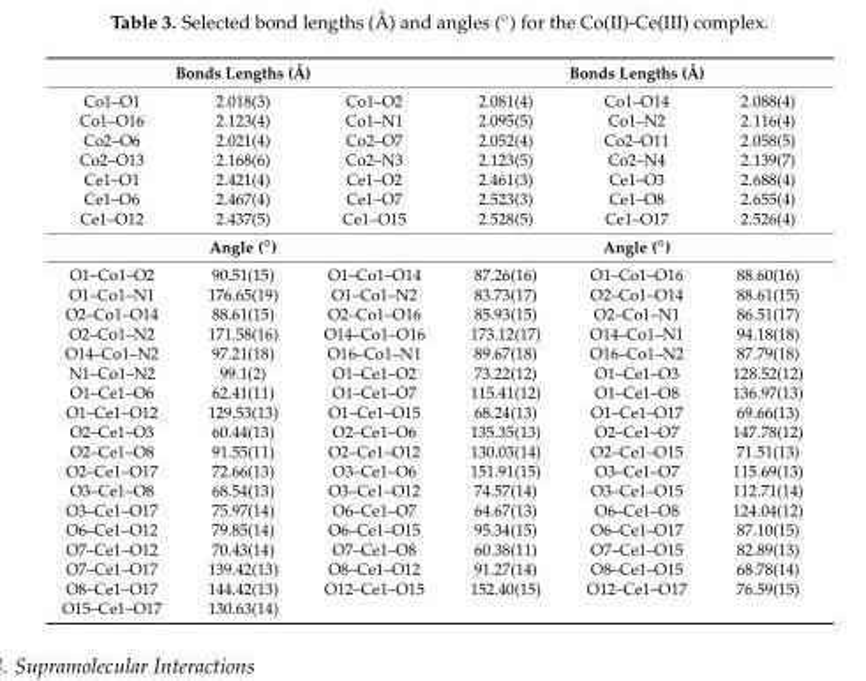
<table><tbody><tr><td colspan="3">Bonds Lengths (Å)</td><td colspan="3">Bonds Lengths (Å)</td></tr><tr><td>Co1–O1</td><td>2.018(3)</td><td>Co1–O2</td><td>2.081(4)</td><td>Co1–O14</td><td>2.088(4)</td></tr><tr><td>Co1–O16</td><td>2.123(4)</td><td>Co1–N1</td><td>2.095(5)</td><td>Co1–N2</td><td>2.116(4)</td></tr><tr><td>Co2–O6</td><td>2.021(4)</td><td>Co2–O7</td><td>2.052(4)</td><td>Co2–O11</td><td>2.058(5)</td></tr><tr><td>Co2–O13</td><td>2.168(6)</td><td>Co2–N3</td><td>2.123(5)</td><td>Co2–N4</td><td>2.139(7)</td></tr><tr><td>Ce1–O1</td><td>2.421(4)</td><td>Ce1–O2</td><td>2.461(3)</td><td>Ce1–O3</td><td>2.688(4)</td></tr><tr><td>Ce1–O6</td><td>2.467(4)</td><td>Ce1–O7</td><td>2.523(3)</td><td>Ce1–O8</td><td>2.655(4)</td></tr><tr><td>Ce1–O12</td><td>2.437(5)</td><td>Ce1–O15</td><td>2.528(5)</td><td>Ce1–O17</td><td>2.526(4)</td></tr><tr><td colspan="3">Angle (◦)</td><td colspan="3">Angle (◦)</td></tr><tr><td>O1–Co1–O2</td><td>90.51(15)</td><td>O1–Co1–O14</td><td>87.26(16)</td><td>O1–Co1–O16</td><td>88.60(16)</td></tr><tr><td>O1–Co1–N1</td><td>176.65(19)</td><td>O1–Co1–N2</td><td>83.73(17)</td><td>O2–Co1–O14</td><td>88.61(15)</td></tr><tr><td>O2–Co1–O14</td><td>88.61(15)</td><td>O2–Co1–O16</td><td>85.93(15)</td><td>O2–Co1–N1</td><td>86.51(17)</td></tr><tr><td>O2–Co1–N2</td><td>171.58(16)</td><td>O14–Co1–O16</td><td>173.12(17)</td><td>O14–Co1–N1</td><td>94.18(18)</td></tr><tr><td>O14–Co1–N2</td><td>97.21(18)</td><td>O16–Co1–N1</td><td>89.67(18)</td><td>O16–Co1–N2</td><td>87.79(18)</td></tr><tr><td>N1–Co1–N2</td><td>99.1(2)</td><td>O1–Ce1–O2</td><td>73.22(12)</td><td>O1–Ce1–O3</td><td>128.52(12)</td></tr><tr><td>O1–Ce1–O6</td><td>62.41(11)</td><td>O1–Ce1–O7</td><td>115.41(12)</td><td>O1–Ce1–O8</td><td>136.97(13)</td></tr><tr><td>O1–Ce1–O12</td><td>129.53(13)</td><td>O1–Ce1–O15</td><td>68.24(13)</td><td>O1–Ce1–O17</td><td>69.66(13)</td></tr><tr><td>O2–Ce1–O3</td><td>60.44(13)</td><td>O2–Ce1–O6</td><td>135.35(13)</td><td>O2–Ce1–O7</td><td>147.78(12)</td></tr><tr><td>O2–Ce1–O8</td><td>91.55(11)</td><td>O2–Ce1–O12</td><td>130.03(14)</td><td>O2–Ce1–O15</td><td>71.51(13)</td></tr><tr><td>O2–Ce1–O17</td><td>72.66(13)</td><td>O3–Ce1–O6</td><td>151.91(15)</td><td>O3–Ce1–O7</td><td>115.69(13)</td></tr><tr><td>O3–Ce1–O8</td><td>68.54(13)</td><td>O3–Ce1–O12</td><td>74.57(14)</td><td>O3–Ce1–O15</td><td>112.71(14)</td></tr><tr><td>O3–Ce1–O17</td><td>75.97(14)</td><td>O6–Ce1–O7</td><td>64.67(13)</td><td>O6–Ce1–O8</td><td>124.04(12)</td></tr><tr><td>O6–Ce1–O12</td><td>79.85(14)</td><td>O6–Ce1–O15</td><td>95.34(15)</td><td>O6–Ce1–O17</td><td>87.10(15)</td></tr><tr><td>O7–Ce1–O12</td><td>70.43(14)</td><td>O7–Ce1–O8</td><td>60.38(11)</td><td>O7–Ce1–O15</td><td>82.89(13)</td></tr><tr><td>O7–Ce1–O17</td><td>139.42(13)</td><td>O8–Ce1–O12</td><td>91.27(14)</td><td>O8–Ce1–O15</td><td>68.78(14)</td></tr><tr><td>O8–Ce1–O17</td><td>144.42(13)</td><td>O12–Ce1–O15</td><td>152.40(15)</td><td>O12–Ce1–O17</td><td>76.59(15)</td></tr><tr><td>O15–Ce1–O17</td><td>130.63(14)</td><td></td><td></td><td></td><td></td></tr></tbody></table>